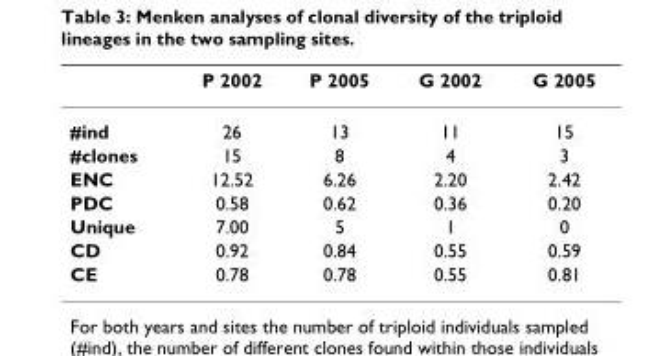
<table><thead><tr><td></td><td>P 2002</td><td>P 2005</td><td>G 2002</td><td>G 2005</td></tr></thead><tbody><tr><td>#ind</td><td>26</td><td>13</td><td>11</td><td>15</td></tr><tr><td>#clones</td><td>15</td><td>8</td><td>4</td><td>3</td></tr><tr><td>ENC</td><td>12.52</td><td>6.26</td><td>2.20</td><td>2.42</td></tr><tr><td>PDC</td><td>0.58</td><td>0.62</td><td>0.36</td><td>0.20</td></tr><tr><td>Unique</td><td>7.00</td><td>5</td><td>1</td><td>0</td></tr><tr><td>CD</td><td>0.92</td><td>0.84</td><td>0.55</td><td>0.59</td></tr><tr><td>CE</td><td>0.78</td><td>0.78</td><td>0.55</td><td>0.81</td></tr></tbody></table>